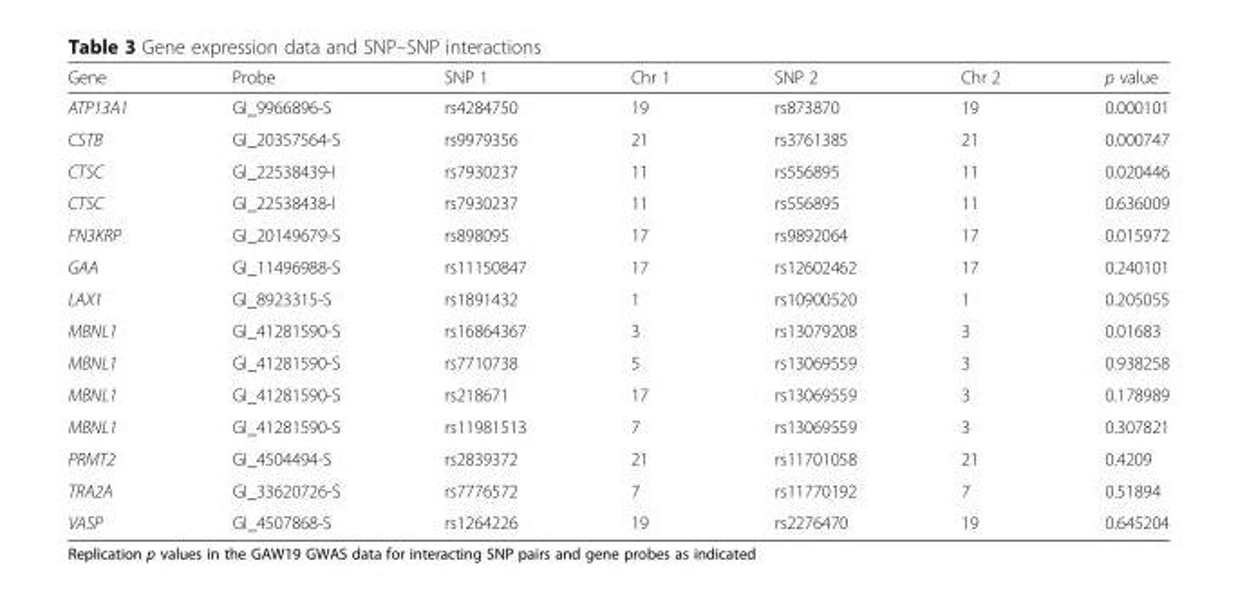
<table><thead><tr><td>Gene</td><td>Probe</td><td>SNP 1</td><td>Chr 1</td><td>SNP 2</td><td>Chr 2</td><td>p value</td></tr></thead><tbody><tr><td>ATP13A1</td><td>GI_9966896-S</td><td>rs4284750</td><td>19</td><td>rs873870</td><td>19</td><td>0.000101</td></tr><tr><td>CSTB</td><td>GI_20357564-S</td><td>rs9979356</td><td>21</td><td>rs3761385</td><td>21</td><td>0.000747</td></tr><tr><td>CTSC</td><td>GI_22538439-I</td><td>rs7930237</td><td>11</td><td>rs556895</td><td>11</td><td>0.020446</td></tr><tr><td>CTSC</td><td>GI_22538438-I</td><td>rs7930237</td><td>11</td><td>rs556895</td><td>11</td><td>0.636009</td></tr><tr><td>FN3KRP</td><td>GI_20149679-S</td><td>rs898095</td><td>17</td><td>rs9892064</td><td>17</td><td>0.015972</td></tr><tr><td>GAA</td><td>GI_11496988-S</td><td>rs11150847</td><td>17</td><td>rs12602462</td><td>17</td><td>0.240101</td></tr><tr><td>LAX1</td><td>GI_8923315-S</td><td>rs1891432</td><td>1</td><td>rs10900520</td><td>1</td><td>0.205055</td></tr><tr><td>MBNL1</td><td>GI_41281590-S</td><td>rs16864367</td><td>3</td><td>rs13079208</td><td>3</td><td>0.01683</td></tr><tr><td>MBNL1</td><td>GI_41281590-S</td><td>rs7710738</td><td>5</td><td>rs13069559</td><td>3</td><td>0.938258</td></tr><tr><td>MBNL1</td><td>GI_41281590-S</td><td>rs218671</td><td>17</td><td>rs13069559</td><td>3</td><td>0.178989</td></tr><tr><td>MBNL1</td><td>GI_41281590-S</td><td>rs11981513</td><td>7</td><td>rs13069559</td><td>3</td><td>0.307821</td></tr><tr><td>PRMT2</td><td>GI_4504494-S</td><td>rs2839372</td><td>21</td><td>rs11701058</td><td>21</td><td>0.4209</td></tr><tr><td>TRA2A</td><td>GI_33620726-S</td><td>rs7776572</td><td>7</td><td>rs11770192</td><td>7</td><td>0.51894</td></tr><tr><td>VASP</td><td>GI_4507868-S</td><td>rs1264226</td><td>19</td><td>rs2276470</td><td>19</td><td>0.645204</td></tr></tbody></table>